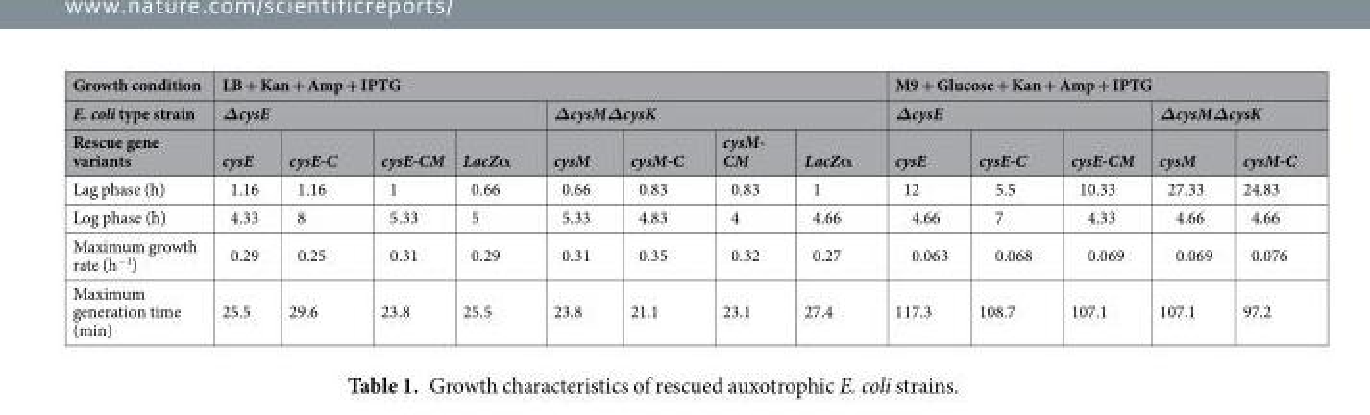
<table><thead><tr><td rowspan="3">Growth condition E. coli type strain Rescue gene variants</td><td colspan="8">LB + Kan + Amp + IPTG</td><td colspan="5">M9 + Glucose + Kan + Amp + IPTG</td></tr><tr><td colspan="4">ΔcysE</td><td colspan="4">ΔcysMΔcysK</td><td colspan="3">ΔcysE</td><td colspan="2">ΔcysMΔcysK</td></tr><tr><td>cysE</td><td>cysE-C</td><td>cysE-CM</td><td>LacZα</td><td>cysM</td><td>cysM-C</td><td>cysM- CM</td><td>LacZα</td><td>cysE</td><td>cysE-C</td><td>cysE-CM</td><td>cysM</td><td>cysM-C</td></tr></thead><tbody><tr><td>Lag phase (h)</td><td>1.16</td><td>1.16</td><td>1</td><td>0.66</td><td>0.66</td><td>0.83</td><td>0.83</td><td>1</td><td>12</td><td>5.5</td><td>10.33</td><td>27.33</td><td>24.83</td></tr><tr><td>Log phase (h)</td><td>4.33</td><td>8</td><td>5.33</td><td>5</td><td>5.33</td><td>4.83</td><td>4</td><td>4.66</td><td>4.66</td><td>7</td><td>4.33</td><td>4.66</td><td>4.66</td></tr><tr><td>Maximum growth rate (h<sup>−1</sup>)</td><td>0.29</td><td>0.25</td><td>0.31</td><td>0.29</td><td>0.31</td><td>0.35</td><td>0.32</td><td>0.27</td><td>0.063</td><td>0.068</td><td>0.069</td><td>0.069</td><td>0.076</td></tr><tr><td>Maximum generation time (min)</td><td>25.5</td><td>29.6</td><td>23.8</td><td>25.5</td><td>23.8</td><td>21.1</td><td>23.1</td><td>27.4</td><td>117.3</td><td>108.7</td><td>107.1</td><td>107.1</td><td>97.2</td></tr></tbody></table>